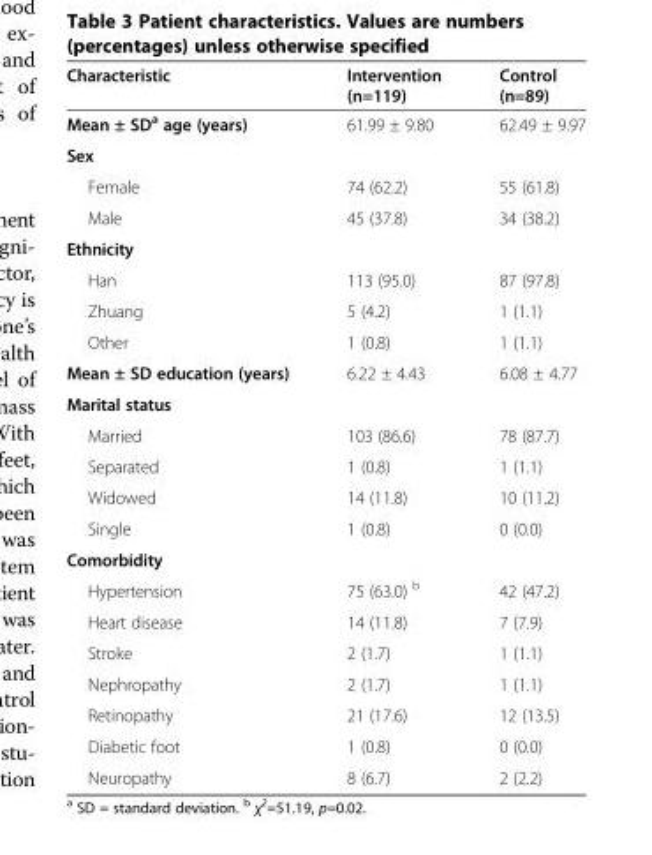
<table><thead><tr><td>Characteristic</td><td>Intervention (n=119)</td><td>Control (n=89)</td></tr></thead><tbody><tr><td>Mean ± SD<sup>a</sup> age (years)</td><td>61.99 ± 9.80</td><td>62.49 ± 9.97</td></tr><tr><td colspan="3">Sex</td></tr><tr><td>Female</td><td>74 (62.2)</td><td>55 (61.8)</td></tr><tr><td>Male</td><td>45 (37.8)</td><td>34 (38.2)</td></tr><tr><td colspan="3">Ethnicity</td></tr><tr><td>Han</td><td>113 (95.0)</td><td>87 (97.8)</td></tr><tr><td>Zhuang</td><td>5 (4.2)</td><td>1 (1.1)</td></tr><tr><td>Other</td><td>1 (0.8)</td><td>1 (1.1)</td></tr><tr><td>Mean ± SD education (years)</td><td>6.22 ± 4.43</td><td>6.08 ± 4.77</td></tr><tr><td colspan="3">Marital status</td></tr><tr><td>Married</td><td>103 (86.6)</td><td>78 (87.7)</td></tr><tr><td>Separated</td><td>1 (0.8)</td><td>1 (1.1)</td></tr><tr><td>Widowed</td><td>14 (11.8)</td><td>10 (11.2)</td></tr><tr><td>Single</td><td>1 (0.8)</td><td>0 (0.0)</td></tr><tr><td colspan="3">Comorbidity</td></tr><tr><td>Hypertension</td><td>75 (63.0) <sup>b</sup></td><td>42 (47.2)</td></tr><tr><td>Heart disease</td><td>14 (11.8)</td><td>7 (7.9)</td></tr><tr><td>Stroke</td><td>2 (1.7)</td><td>1 (1.1)</td></tr><tr><td>Nephropathy</td><td>2 (1.7)</td><td>1 (1.1)</td></tr><tr><td>Retinopathy</td><td>21 (17.6)</td><td>12 (13.5)</td></tr><tr><td>Diabetic foot</td><td>1 (0.8)</td><td>0 (0.0)</td></tr><tr><td>Neuropathy</td><td>8 (6.7)</td><td>2 (2.2)</td></tr></tbody></table>